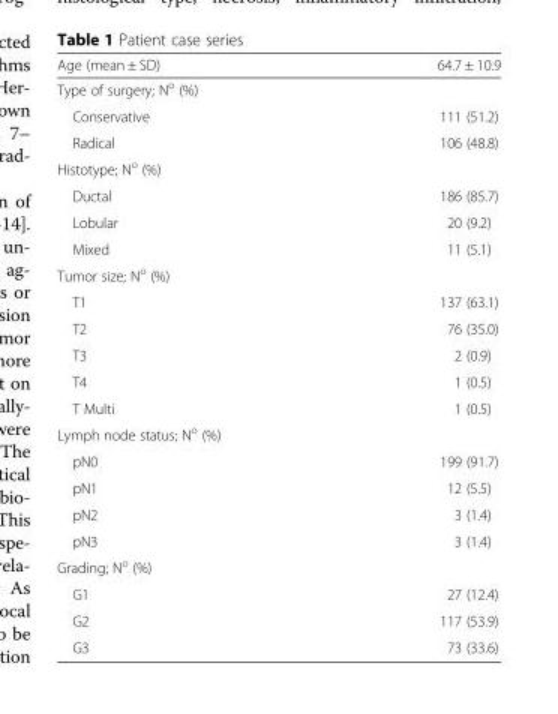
<table><thead><tr><td>Age (mean ± SD)</td><td>64.7 ± 10.9</td></tr></thead><tbody><tr><td colspan="2">Type of surgery; N<sup>o</sup> (%)</td></tr><tr><td>Conservative</td><td>111 (51.2)</td></tr><tr><td>Radical</td><td>106 (48.8)</td></tr><tr><td colspan="2">Histotype; N<sup>o</sup> (%)</td></tr><tr><td>Ductal</td><td>186 (85.7)</td></tr><tr><td>Lobular</td><td>20 (9.2)</td></tr><tr><td>Mixed</td><td>11 (5.1)</td></tr><tr><td colspan="2">Tumor size; N<sup>o</sup> (%)</td></tr><tr><td>T1</td><td>137 (63.1)</td></tr><tr><td>T2</td><td>76 (35.0)</td></tr><tr><td>T3</td><td>2 (0.9)</td></tr><tr><td>T4</td><td>1 (0.5)</td></tr><tr><td>T Multi</td><td>1 (0.5)</td></tr><tr><td colspan="2">Lymph node status; N<sup>o</sup> (%)</td></tr><tr><td>pN0</td><td>199 (91.7)</td></tr><tr><td>pN1</td><td>12 (5.5)</td></tr><tr><td>pN2</td><td>3 (1.4)</td></tr><tr><td>pN3</td><td>3 (1.4)</td></tr><tr><td colspan="2">Grading; N<sup>o</sup> (%)</td></tr><tr><td>G1</td><td>27 (12.4)</td></tr><tr><td>G2</td><td>117 (53.9)</td></tr><tr><td>G3</td><td>73 (33.6)</td></tr></tbody></table>